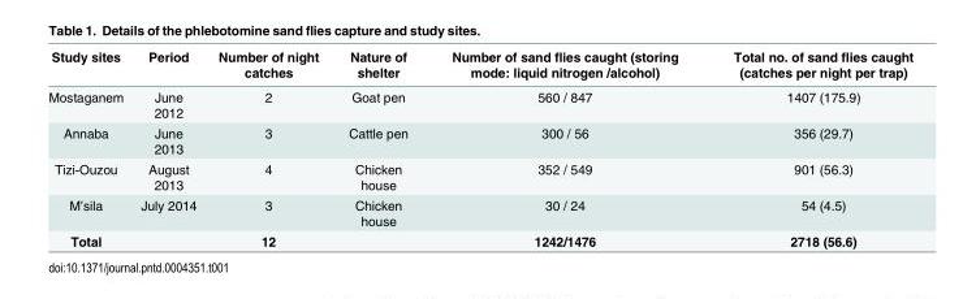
<table><thead><tr><td>Study sites</td><td>Period</td><td>Number of night catches</td><td>Nature of shelter</td><td>Number of sand flies caught (storing mode: liquid nitrogen /alcohol)</td><td>Total no. of sand flies caught (catches per night per trap)</td></tr></thead><tbody><tr><td>Mostaganem</td><td>June 2012</td><td>2</td><td>Goat pen</td><td>560 / 847</td><td>1407 (175.9)</td></tr><tr><td>Annaba</td><td>June 2013</td><td>3</td><td>Cattle pen</td><td>300 / 56</td><td>356 (29.7)</td></tr><tr><td>Tizi-Ouzou</td><td>August 2013</td><td>4</td><td>Chicken house</td><td>352 / 549</td><td>901 (56.3)</td></tr><tr><td>M’sila</td><td>July 2014</td><td>3</td><td>Chicken house</td><td>30 / 24</td><td>54 (4.5)</td></tr><tr><td>Total</td><td></td><td>12</td><td></td><td>1242/1476</td><td>2718 (56.6)</td></tr></tbody></table>